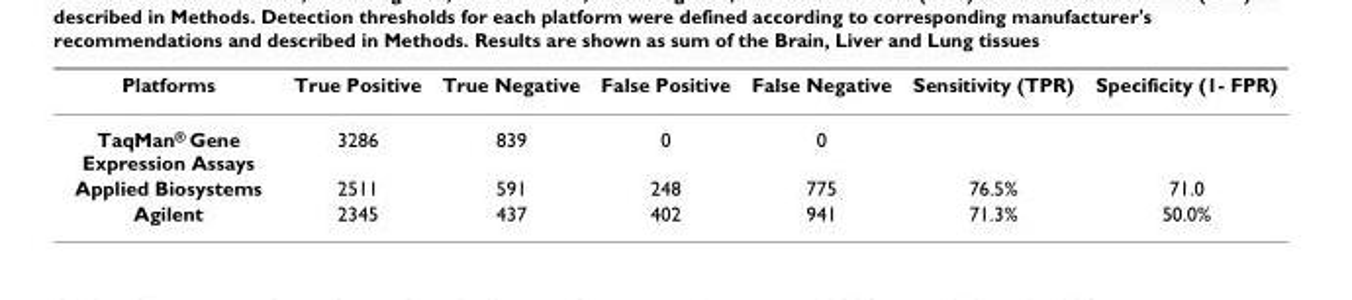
<table><thead><tr><td>Platforms</td><td>True Positive</td><td>True Negative</td><td>False Positive</td><td>False Negative</td><td>Sensitivity (TPR)</td><td>Specificity (1- FPR)</td></tr></thead><tbody><tr><td>TaqMan® Gene Expression Assays</td><td>3286</td><td>839</td><td>0</td><td>0</td><td></td><td></td></tr><tr><td>Applied Biosystems</td><td>2511</td><td>591</td><td>248</td><td>775</td><td>76.5%</td><td>71.0</td></tr><tr><td>Agilent</td><td>2345</td><td>437</td><td>402</td><td>941</td><td>71.3%</td><td>50.0%</td></tr></tbody></table>